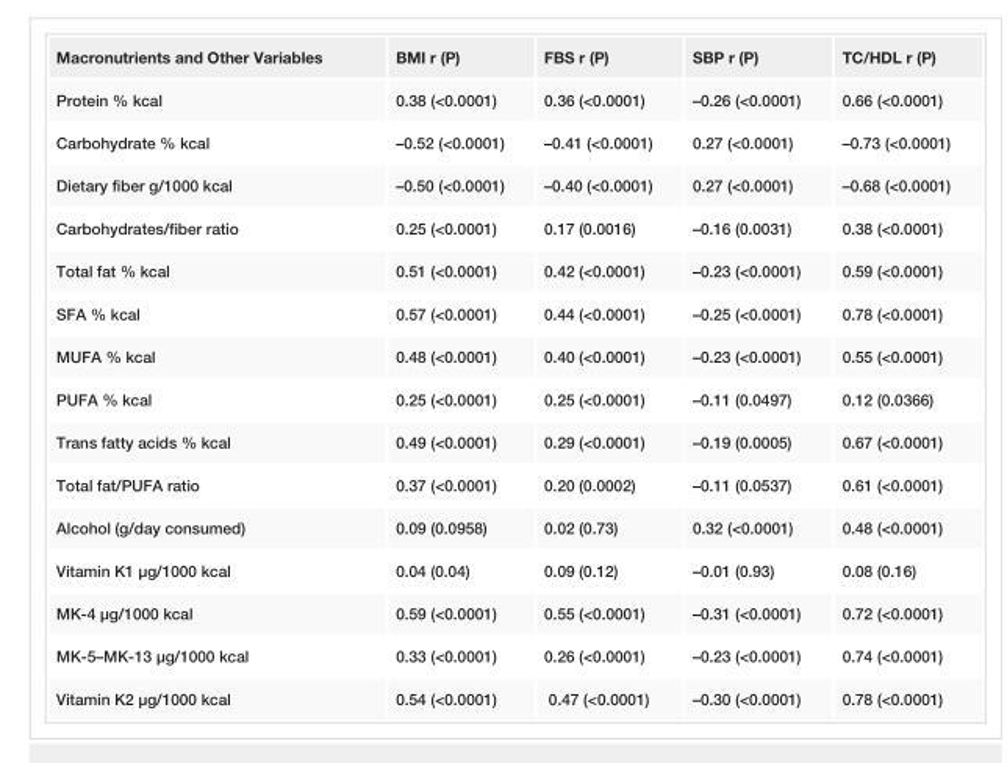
<table><tbody><tr><td>Macronutrients and Other Variables</td><td>BMI r (P)</td><td>FBS r (P)</td><td>SBP r (P)</td><td>TC/HDL r (P)</td></tr><tr><td>Protein % kcal</td><td>0.38 (&lt;0.0001)</td><td>0.36 (&lt;0.0001)</td><td>–0.26 (&lt;0.0001)</td><td>0.66 (&lt;0.0001)</td></tr><tr><td>Carbohydrate % kcal</td><td>–0.52 (&lt;0.0001)</td><td>–0.41 (&lt;0.0001)</td><td>0.27 (&lt;0.0001)</td><td>–0.73 (&lt;0.0001)</td></tr><tr><td>Dietary fiber g/1000 kcal</td><td>–0.50 (&lt;0.0001)</td><td>–0.40 (&lt;0.0001)</td><td>0.27 (&lt;0.0001)</td><td>–0.68 (&lt;0.0001)</td></tr><tr><td>Carbohydrates/fiber ratio</td><td>0.25 (&lt;0.0001)</td><td>0.17 (0.0016)</td><td>–0.16 (0.0031)</td><td>0.38 (&lt;0.0001)</td></tr><tr><td>Total fat % kcal</td><td>0.51 (&lt;0.0001)</td><td>0.42 (&lt;0.0001)</td><td>–0.23 (&lt;0.0001)</td><td>0.59 (&lt;0.0001)</td></tr><tr><td>SFA % kcal</td><td>0.57 (&lt;0.0001)</td><td>0.44 (&lt;0.0001)</td><td>–0.25 (&lt;0.0001)</td><td>0.78 (&lt;0.0001)</td></tr><tr><td>MUFA % kcal</td><td>0.48 (&lt;0.0001)</td><td>0.40 (&lt;0.0001)</td><td>–0.23 (&lt;0.0001)</td><td>0.55 (&lt;0.0001)</td></tr><tr><td>PUFA % kcal</td><td>0.25 (&lt;0.0001)</td><td>0.25 (&lt;0.0001)</td><td>–0.11 (0.0497)</td><td>0.12 (0.0366)</td></tr><tr><td>Trans fatty acids % kcal</td><td>0.49 (&lt;0.0001)</td><td>0.29 (&lt;0.0001)</td><td>–0.19 (0.0005)</td><td>0.67 (&lt;0.0001)</td></tr><tr><td>Total fat/PUFA ratio</td><td>0.37 (&lt;0.0001)</td><td>0.20 (0.0002)</td><td>–0.11 (0.0537)</td><td>0.61 (&lt;0.0001)</td></tr><tr><td>Alcohol (g/day consumed)</td><td>0.09 (0.0958)</td><td>0.02 (0.73)</td><td>0.32 (&lt;0.0001)</td><td>0.48 (&lt;0.0001)</td></tr><tr><td>Vitamin K1 µg/1000 kcal</td><td>0.04 (0.04)</td><td>0.09 (0.12)</td><td>–0.01 (0.93)</td><td>0.08 (0.16)</td></tr><tr><td>MK-4 µg/1000 kcal</td><td>0.59 (&lt;0.0001)</td><td>0.55 (&lt;0.0001)</td><td>–0.31 (&lt;0.0001)</td><td>0.72 (&lt;0.0001)</td></tr><tr><td>MK-5–MK-13 µg/1000 kcal</td><td>0.33 (&lt;0.0001)</td><td>0.26 (&lt;0.0001)</td><td>–0.23 (&lt;0.0001)</td><td>0.74 (&lt;0.0001)</td></tr><tr><td>Vitamin K2 µg/1000 kcal</td><td>0.54 (&lt;0.0001)</td><td>0.47 (&lt;0.0001)</td><td>–0.30 (&lt;0.0001)</td><td>0.78 (&lt;0.0001)</td></tr></tbody></table>